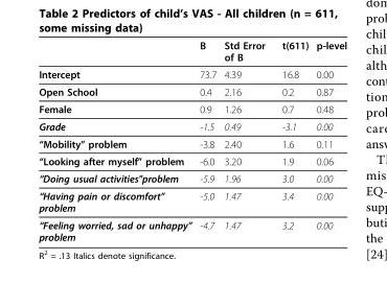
<table><thead><tr><td></td><td>B</td><td>Std Error of B</td><td>t(611)</td><td>p-level</td></tr></thead><tbody><tr><td>Intercept</td><td>73.7</td><td>4.39</td><td>16.8</td><td>0.00</td></tr><tr><td>Open School</td><td>0.4</td><td>2.16</td><td>0.2</td><td>0.87</td></tr><tr><td>Female</td><td>0.9</td><td>1.26</td><td>0.7</td><td>0.48</td></tr><tr><td>Grade</td><td>-1.5</td><td>0.49</td><td>-3.1</td><td>0.00</td></tr><tr><td>“Mobility” problem</td><td>-3.8</td><td>2.40</td><td>1.6</td><td>0.11</td></tr><tr><td>“Looking after myself” problem</td><td>-6.0</td><td>3.20</td><td>1.9</td><td>0.06</td></tr><tr><td>“Doing usual activities&quot;problem</td><td>-5.9</td><td>1.96</td><td>3.0</td><td>0.00</td></tr><tr><td>“Having pain or discomfort” problem</td><td>-5.0</td><td>1.47</td><td>3.4</td><td>0.00</td></tr><tr><td>“Feeling worried, sad or unhappy” problem</td><td>-4.7</td><td>1.47</td><td>3.2</td><td>0.00</td></tr></tbody></table>